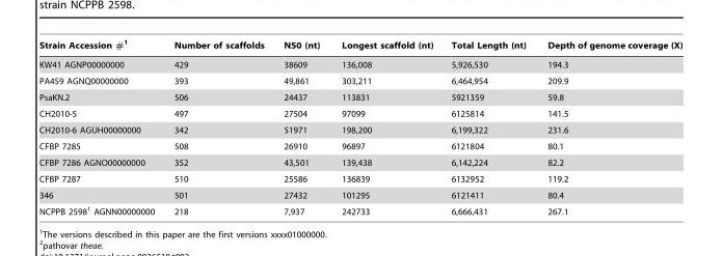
<table><thead><tr><td>Strain Accession #<sup>1</sup></td><td>Number of scaffolds</td><td>N50 (nt)</td><td>Longest scaffold (nt)</td><td>Total Length (nt)</td><td>Depth of genome coverage (X)</td></tr></thead><tbody><tr><td>KW41 AGNP00000000</td><td>429</td><td>38609</td><td>136,008</td><td>5,926,530</td><td>194.3</td></tr><tr><td>PA459 AGNQ00000000</td><td>393</td><td>49,861</td><td>303,211</td><td>6,464,954</td><td>209.9</td></tr><tr><td>PsaKN.2</td><td>506</td><td>24437</td><td>113831</td><td>5921359</td><td>59.8</td></tr><tr><td>CH2010-5</td><td>497</td><td>27504</td><td>97099</td><td>6125814</td><td>141.5</td></tr><tr><td>CH2010-6 AGUH00000000</td><td>342</td><td>51971</td><td>198,200</td><td>6,199,322</td><td>231.6</td></tr><tr><td>CFBP 7285</td><td>508</td><td>26910</td><td>96897</td><td>6121804</td><td>80.1</td></tr><tr><td>CFBP 7286 AGNO00000000</td><td>352</td><td>43,501</td><td>139,438</td><td>6,142,224</td><td>82.2</td></tr><tr><td>CFBP 7287</td><td>510</td><td>25586</td><td>136839</td><td>6132952</td><td>119.2</td></tr><tr><td>346</td><td>501</td><td>27432</td><td>101295</td><td>6121411</td><td>80.4</td></tr><tr><td>NCPPB 2598<sup>1</sup> AGNN00000000</td><td>218</td><td>7,937</td><td>242733</td><td>6,666,431</td><td>267.1</td></tr></tbody></table>